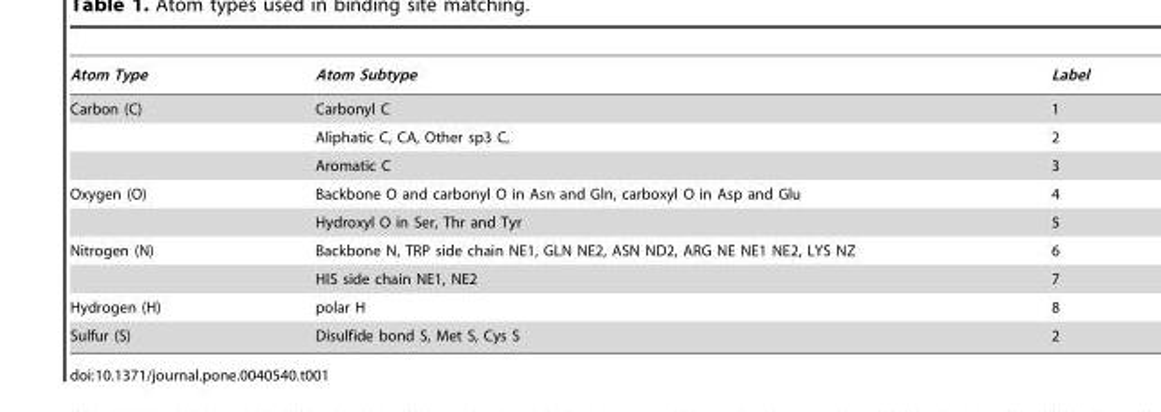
<table><thead><tr><td>Atom Type</td><td>Atom Subtype</td><td>Label</td></tr></thead><tbody><tr><td rowspan="3">Carbon (C)</td><td>Carbonyl C</td><td>1</td></tr><tr><td>Aliphatic C, CA, Other sp3 C,</td><td>2</td></tr><tr><td>Aromatic C</td><td>3</td></tr><tr><td rowspan="2">Oxygen (O)</td><td>Backbone O and carbonyl O in Asn and Gln, carboxyl O in Asp and Glu</td><td>4</td></tr><tr><td>Hydroxyl O in Ser, Thr and Tyr</td><td>5</td></tr><tr><td rowspan="2">Nitrogen (N)</td><td>Backbone N, TRP side chain NE1, GLN NE2, ASN ND2, ARG NE NE1 NE2, LYS NZ</td><td>6</td></tr><tr><td>HIS side chain NE1, NE2</td><td>7</td></tr><tr><td>Hydrogen (H)</td><td>polar H</td><td>8</td></tr><tr><td>Sulfur (S)</td><td>Disulfide bond S, Met S, Cys S</td><td>2</td></tr></tbody></table>